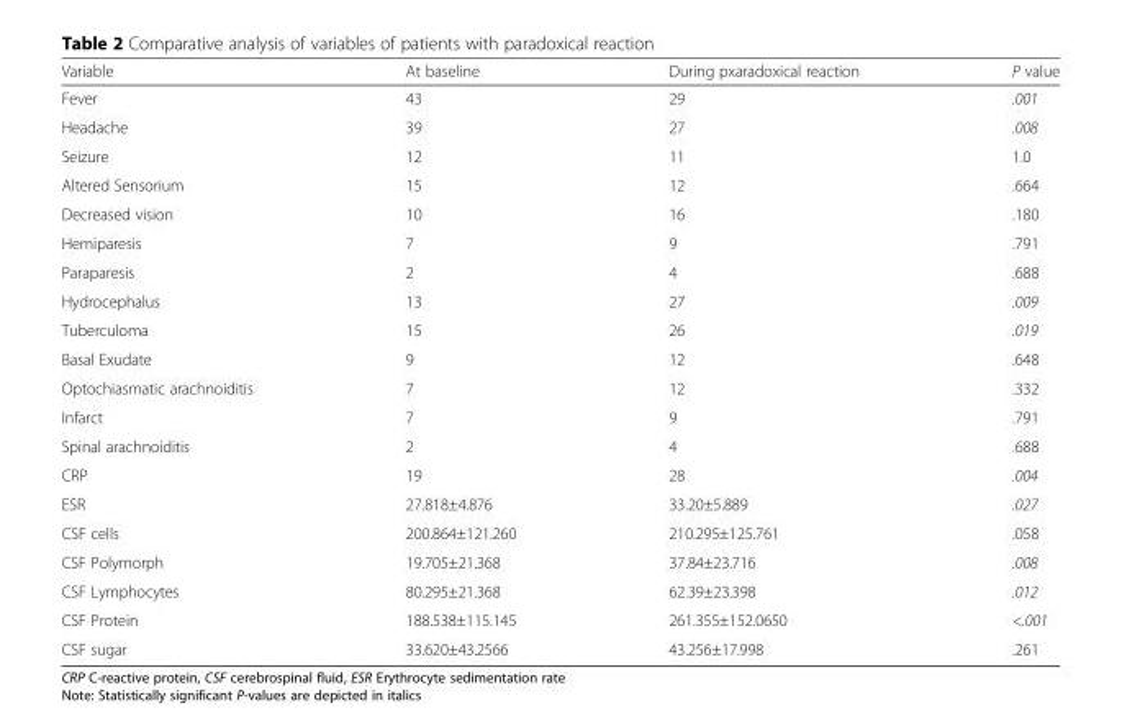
<table><thead><tr><td>Variable</td><td>At baseline</td><td>During pxaradoxical reaction</td><td>P value</td></tr></thead><tbody><tr><td>Fever</td><td>43</td><td>29</td><td>.001</td></tr><tr><td>Headache</td><td>39</td><td>27</td><td>.008</td></tr><tr><td>Seizure</td><td>12</td><td>11</td><td>1.0</td></tr><tr><td>Altered Sensorium</td><td>15</td><td>12</td><td>.664</td></tr><tr><td>Decreased vision</td><td>10</td><td>16</td><td>.180</td></tr><tr><td>Hemiparesis</td><td>7</td><td>9</td><td>.791</td></tr><tr><td>Paraparesis</td><td>2</td><td>4</td><td>.688</td></tr><tr><td>Hydrocephalus</td><td>13</td><td>27</td><td>.009</td></tr><tr><td>Tuberculoma</td><td>15</td><td>26</td><td>.019</td></tr><tr><td>Basal Exudate</td><td>9</td><td>12</td><td>.648</td></tr><tr><td>Optochiasmatic arachnoiditis</td><td>7</td><td>12</td><td>.332</td></tr><tr><td>Infarct</td><td>7</td><td>9</td><td>.791</td></tr><tr><td>Spinal arachnoiditis</td><td>2</td><td>4</td><td>.688</td></tr><tr><td>CRP</td><td>19</td><td>28</td><td>.004</td></tr><tr><td>ESR</td><td>27.818±4.876</td><td>33.20±5.889</td><td>.027</td></tr><tr><td>CSF cells</td><td>200.864±121.260</td><td>210.295±125.761</td><td>.058</td></tr><tr><td>CSF Polymorph</td><td>19.705±21.368</td><td>37.84±23.716</td><td>.008</td></tr><tr><td>CSF Lymphocytes</td><td>80.295±21.368</td><td>62.39±23.398</td><td>.012</td></tr><tr><td>CSF Protein</td><td>188.538±115.145</td><td>261.355±152.0650</td><td>&lt;.001</td></tr><tr><td>CSF sugar</td><td>33.620±43.2566</td><td>43.256±17.998</td><td>.261</td></tr></tbody></table>